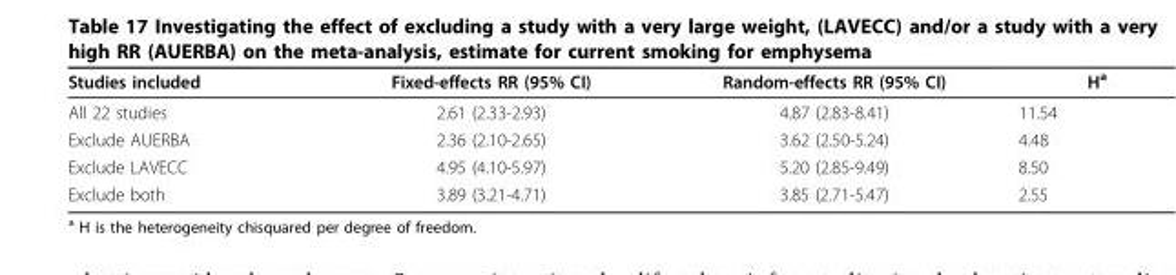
<table><thead><tr><td>Studies included</td><td>Fixed-effects RR (95% CI)</td><td>Random-effects RR (95% CI)</td><td>H<sup>a</sup></td></tr></thead><tbody><tr><td>All 22 studies</td><td>2.61 (2.33-2.93)</td><td>4.87 (2.83-8.41)</td><td>11.54</td></tr><tr><td>Exclude AUERBA</td><td>2.36 (2.10-2.65)</td><td>3.62 (2.50-5.24)</td><td>4.48</td></tr><tr><td>Exclude LAVECC</td><td>4.95 (4.10-5.97)</td><td>5.20 (2.85-9.49)</td><td>8.50</td></tr><tr><td>Exclude both</td><td>3.89 (3.21-4.71)</td><td>3.85 (2.71-5.47)</td><td>2.55</td></tr></tbody></table>